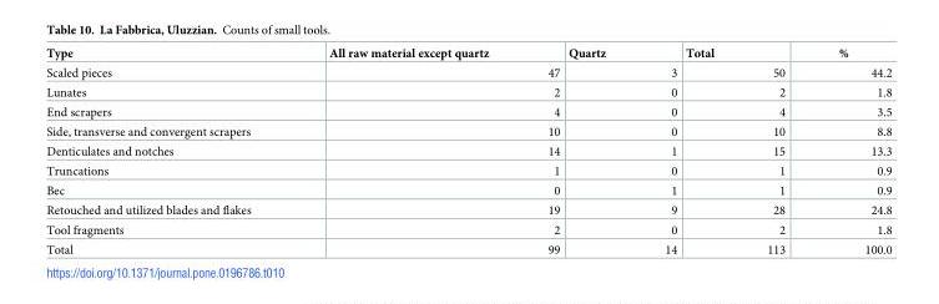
<table><thead><tr><td>Type</td><td>All raw material except quartz</td><td>Quartz</td><td>Total</td><td>%</td></tr></thead><tbody><tr><td>Scaled pieces</td><td>47</td><td>3</td><td>50</td><td>44.2</td></tr><tr><td>Lunates</td><td>2</td><td>0</td><td>2</td><td>1.8</td></tr><tr><td>End scrapers</td><td>4</td><td>0</td><td>4</td><td>3.5</td></tr><tr><td>Side, transverse and convergent scrapers</td><td>10</td><td>0</td><td>10</td><td>8.8</td></tr><tr><td>Denticulates and notches</td><td>14</td><td>1</td><td>15</td><td>13.3</td></tr><tr><td>Truncations</td><td>1</td><td>0</td><td>1</td><td>0.9</td></tr><tr><td>Bec</td><td>0</td><td>1</td><td>1</td><td>0.9</td></tr><tr><td>Retouched and utilized blades and flakes</td><td>19</td><td>9</td><td>28</td><td>24.8</td></tr><tr><td>Tool fragments</td><td>2</td><td>0</td><td>2</td><td>1.8</td></tr><tr><td>Total</td><td>99</td><td>14</td><td>113</td><td>100.0</td></tr></tbody></table>